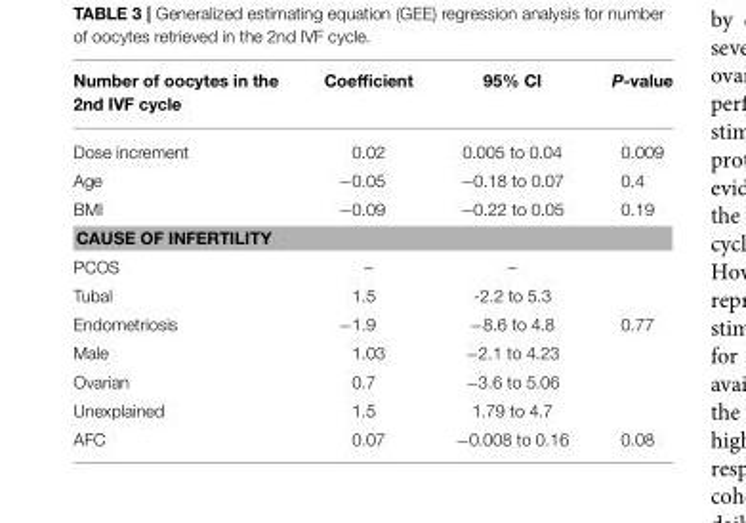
<table><thead><tr><td>Number of oocytes in the 2nd IVF cycle</td><td>Coefficient</td><td>95% CI</td><td>P-value</td></tr></thead><tbody><tr><td>Dose increment</td><td>0.02</td><td>0.005 to 0.04</td><td>0.009</td></tr><tr><td>Age</td><td>−0.05</td><td>−0.18 to 0.07</td><td>0.4</td></tr><tr><td>BMI</td><td>−0.09</td><td>−0.22 to 0.05</td><td>0.19</td></tr><tr><td colspan="4">CAUSE OF INFERTILITY</td></tr><tr><td>PCOS</td><td>–</td><td>–</td><td></td></tr><tr><td>Tubal</td><td>1.5</td><td>-2.2 to 5.3</td><td></td></tr><tr><td>Endometriosis</td><td>−1.9</td><td>−8.6 to 4.8</td><td>0.77</td></tr><tr><td>Male</td><td>1.03</td><td>−2.1 to 4.23</td><td></td></tr><tr><td>Ovarian</td><td>0.7</td><td>−3.6 to 5.06</td><td></td></tr><tr><td>Unexplained</td><td>1.5</td><td>1.79 to 4.7</td><td></td></tr><tr><td>AFC</td><td>0.07</td><td>−0.008 to 0.16</td><td>0.08</td></tr></tbody></table>